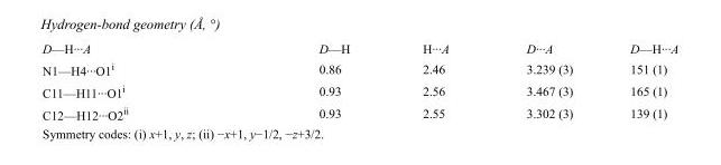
<table><tbody><tr><td>D—H···A</td><td>D—H</td><td>H···A</td><td>D···A</td><td>D—H···A</td></tr><tr><td>N1—H4···O1<sup>i</sup></td><td>0.86</td><td>2.46</td><td>3.239 (3)</td><td>151 (1)</td></tr><tr><td>C11—H11···O1<sup>i</sup></td><td>0.93</td><td>2.56</td><td>3.467 (3)</td><td>165 (1)</td></tr><tr><td>C12—H12···O2<sup>ii</sup></td><td>0.93</td><td>2.55</td><td>3.302 (3)</td><td>139 (1)</td></tr></tbody></table>